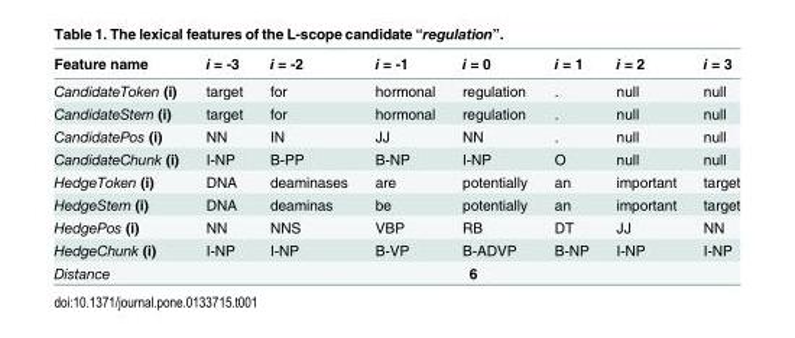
<table><thead><tr><td>Feature name</td><td>i = -3</td><td>i = -2</td><td>i = -1</td><td>i = 0</td><td>i = 1</td><td>i = 2</td><td>i = 3</td></tr></thead><tbody><tr><td>CandidateToken (i)</td><td>target</td><td>for</td><td>hormonal</td><td>regulation</td><td>.</td><td>null</td><td>null</td></tr><tr><td>CandidateStem (i)</td><td>target</td><td>for</td><td>hormonal</td><td>regulation</td><td>.</td><td>null</td><td>null</td></tr><tr><td>CandidatePos (i)</td><td>NN</td><td>IN</td><td>JJ</td><td>NN</td><td>.</td><td>null</td><td>null</td></tr><tr><td>CandidateChunk (i)</td><td>I-NP</td><td>B-PP</td><td>B-NP</td><td>I-NP</td><td>O</td><td>null</td><td>null</td></tr><tr><td>HedgeToken (i)</td><td>DNA</td><td>deaminases</td><td>are</td><td>potentially</td><td>an</td><td>important</td><td>target</td></tr><tr><td>HedgeStem (i)</td><td>DNA</td><td>deaminas</td><td>be</td><td>potentially</td><td>an</td><td>important</td><td>target</td></tr><tr><td>HedgePos (i)</td><td>NN</td><td>NNS</td><td>VBP</td><td>RB</td><td>DT</td><td>JJ</td><td>NN</td></tr><tr><td>HedgeChunk (i)</td><td>I-NP</td><td>I-NP</td><td>B-VP</td><td>B-ADVP</td><td>B-NP</td><td>I-NP</td><td>I-NP</td></tr><tr><td>Distance</td><td colspan="7">6</td></tr></tbody></table>